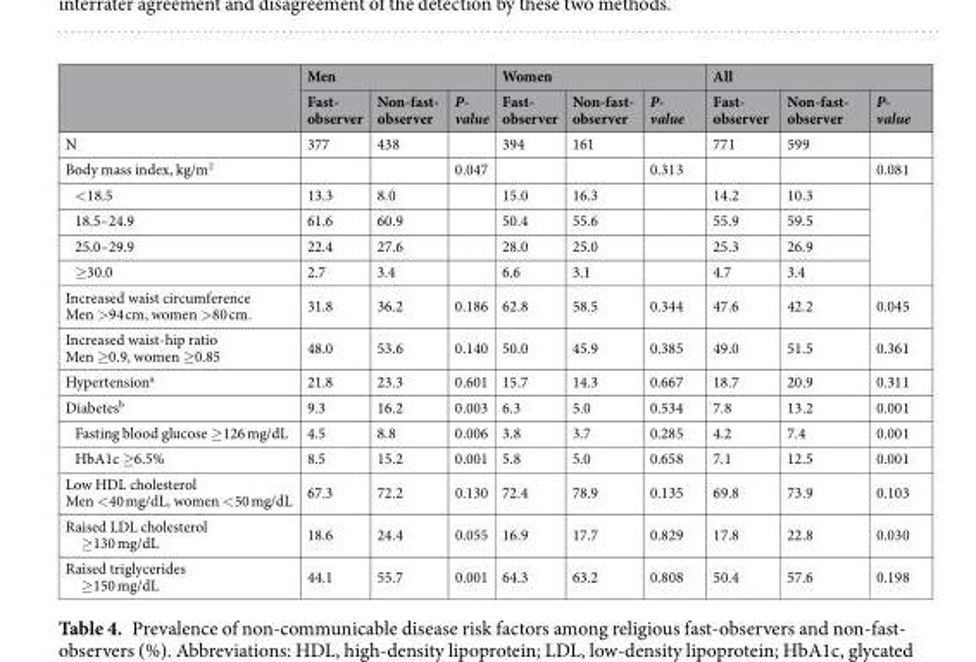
<table><thead><tr><td rowspan="2"></td><td colspan="3">Men</td><td colspan="3">Women</td><td colspan="3">All</td></tr><tr><td>Fast- observer</td><td>Non-fast- observer</td><td>P- value</td><td>Fast- observer</td><td>Non-fast- observer</td><td>P- value</td><td>Fast- observer</td><td>Non-fast- observer</td><td>P- value</td></tr></thead><tbody><tr><td>N</td><td>377</td><td>438</td><td></td><td>394</td><td>161</td><td></td><td>771</td><td>599</td><td></td></tr><tr><td>Body mass index, kg/m<sup>2</sup></td><td></td><td></td><td>0.047</td><td></td><td></td><td>0.313</td><td></td><td></td><td>0.081</td></tr><tr><td>&lt;18.5</td><td>13.3</td><td>8.0</td><td></td><td>15.0</td><td>16.3</td><td></td><td>14.2</td><td>10.3</td><td rowspan="4"></td></tr><tr><td>18.5–24.9</td><td>61.6</td><td>60.9</td><td></td><td>50.4</td><td>55.6</td><td></td><td>55.9</td><td>59.5</td></tr><tr><td>25.0–29.9</td><td>22.4</td><td>27.6</td><td></td><td>28.0</td><td>25.0</td><td></td><td>25.3</td><td>26.9</td></tr><tr><td>≥30.0</td><td>2.7</td><td>3.4</td><td></td><td>6.6</td><td>3.1</td><td></td><td>4.7</td><td>3.4</td></tr><tr><td>Increased waist circumference Men &gt;94 cm, women &gt;80 cm.</td><td>31.8</td><td>36.2</td><td>0.186</td><td>62.8</td><td>58.5</td><td>0.344</td><td>47.6</td><td>42.2</td><td>0.045</td></tr><tr><td>Increased waist-hip ratio Men ≥0.9, women ≥0.85</td><td>48.0</td><td>53.6</td><td>0.140</td><td>50.0</td><td>45.9</td><td>0.385</td><td>49.0</td><td>51.5</td><td>0.361</td></tr><tr><td>Hypertension<sup>a</sup></td><td>21.8</td><td>23.3</td><td>0.601</td><td>15.7</td><td>14.3</td><td>0.667</td><td>18.7</td><td>20.9</td><td>0.311</td></tr><tr><td>Diabetes<sup>b</sup></td><td>9.3</td><td>16.2</td><td>0.003</td><td>6.3</td><td>5.0</td><td>0.534</td><td>7.8</td><td>13.2</td><td>0.001</td></tr><tr><td>Fasting blood glucose ≥126 mg/dL</td><td>4.5</td><td>8.8</td><td>0.006</td><td>3.8</td><td>3.7</td><td>0.285</td><td>4.2</td><td>7.4</td><td>0.001</td></tr><tr><td>HbA1c ≥6.5%</td><td>8.5</td><td>15.2</td><td>0.001</td><td>5.8</td><td>5.0</td><td>0.658</td><td>7.1</td><td>12.5</td><td>0.001</td></tr><tr><td>Low HDL cholesterol Men &lt;40 mg/dL, women &lt;50 mg/dL</td><td>67.3</td><td>72.2</td><td>0.130</td><td>72.4</td><td>78.9</td><td>0.135</td><td>69.8</td><td>73.9</td><td>0.103</td></tr><tr><td>Raised LDL cholesterol ≥130 mg/dL</td><td>18.6</td><td>24.4</td><td>0.055</td><td>16.9</td><td>17.7</td><td>0.829</td><td>17.8</td><td>22.8</td><td>0.030</td></tr><tr><td>Raised triglycerides ≥150 mg/dL</td><td>44.1</td><td>55.7</td><td>0.001</td><td>64.3</td><td>63.2</td><td>0.808</td><td>50.4</td><td>57.6</td><td>0.198</td></tr></tbody></table>